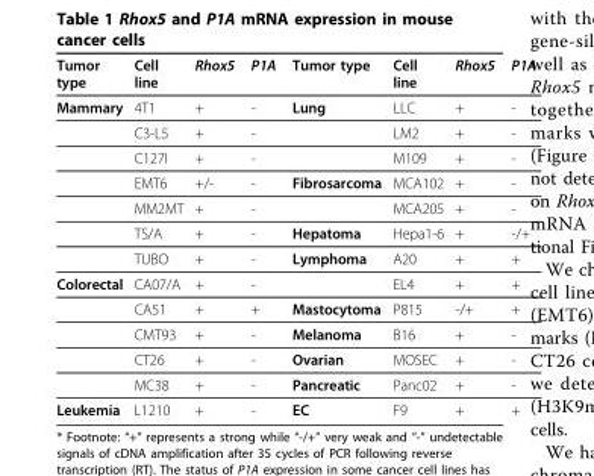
<table><thead><tr><td>Tumor type</td><td>Cell line</td><td>Rhox5</td><td>P1A</td><td>Tumor type</td><td>Cell line</td><td>Rhox5</td><td>P1A</td></tr></thead><tbody><tr><td rowspan="7">Mammary</td><td>4T1</td><td>+</td><td>-</td><td>Lung</td><td>LLC</td><td>+</td><td>-</td></tr><tr><td>C3-L5</td><td>+</td><td>-</td><td></td><td>LM2</td><td>+</td><td>-</td></tr><tr><td>C127I</td><td>+</td><td>-</td><td></td><td>M109</td><td>+</td><td>-</td></tr><tr><td>EMT6</td><td>+/-</td><td>-</td><td>Fibrosarcoma</td><td>MCA102</td><td>+</td><td>-</td></tr><tr><td>MM2MT</td><td>+</td><td>-</td><td></td><td>MCA205</td><td>+</td><td>-</td></tr><tr><td>TS/A</td><td>+</td><td>-</td><td>Hepatoma</td><td>Hepa1-6</td><td>+</td><td>-/+</td></tr><tr><td>TUBO</td><td>+</td><td>-</td><td>Lymphoma</td><td>A20</td><td>+</td><td>+</td></tr><tr><td rowspan="5">Colorectal</td><td>CA07/A</td><td>+</td><td>-</td><td></td><td>EL4</td><td>+</td><td>+</td></tr><tr><td>CA51</td><td>+</td><td>+</td><td>Mastocytoma</td><td>P815</td><td>-/+</td><td>+</td></tr><tr><td>CMT93</td><td>+</td><td>-</td><td>Melanoma</td><td>B16</td><td>+</td><td>-</td></tr><tr><td>CT26</td><td>+</td><td>-</td><td>Ovarian</td><td>MOSEC</td><td>+</td><td>-</td></tr><tr><td>MC38</td><td>+</td><td>-</td><td>Pancreatic</td><td>Panc02</td><td>+</td><td>-</td></tr><tr><td>Leukemia</td><td>L1210</td><td>+</td><td>-</td><td>EC</td><td>F9</td><td>+</td><td>+</td></tr></tbody></table>